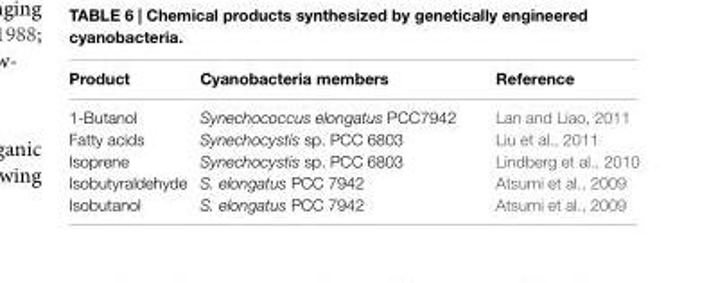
<table><thead><tr><td>Product</td><td>Cyanobacteria members</td><td>Reference</td></tr></thead><tbody><tr><td>1-Butanol Fatty acids Isoprene Isobutyraldehyde Isobutanol</td><td>Synechococcus elongatus PCC7942 Synechocystis sp. PCC 6803 Synechocystis sp. PCC 6803 S. elongatus PCC 7942 S. elongatus PCC 7942</td><td>Lan and Liao, 2011 Liu et al., 2011 Lindberg et al., 2010 Atsumi et al., 2009 Atsumi et al., 2009</td></tr></tbody></table>